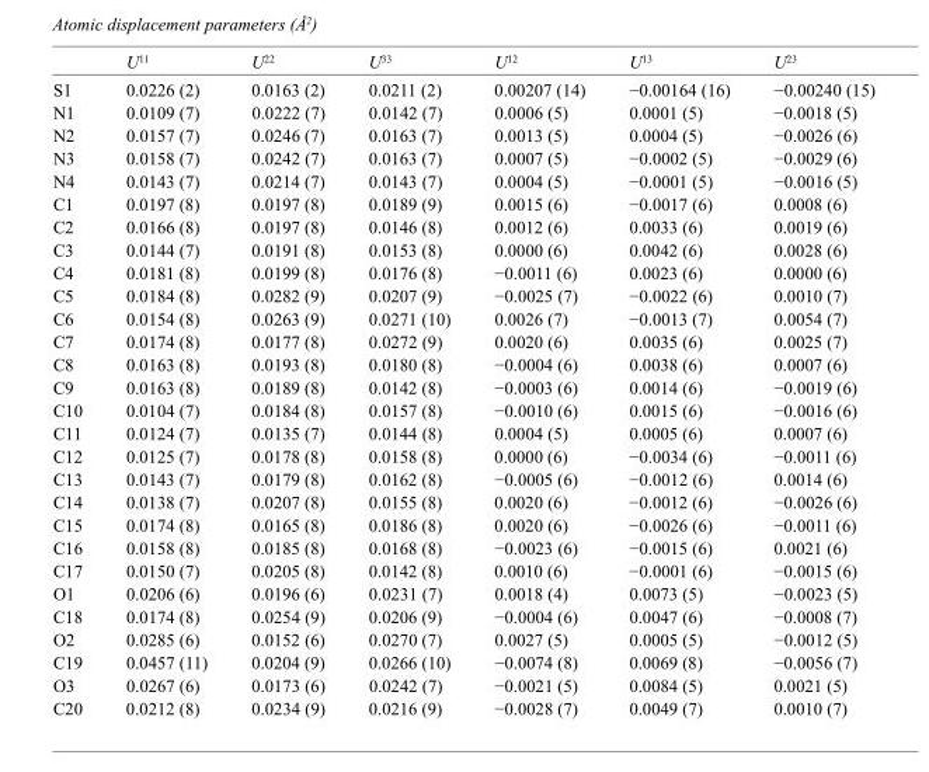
<table><thead><tr><td></td><td>U<sup>11</sup></td><td>U<sup>22</sup></td><td>U<sup>33</sup></td><td>U<sup>12</sup></td><td>U<sup>13</sup></td><td>U<sup>23</sup></td></tr></thead><tbody><tr><td>S1</td><td>0.0226 (2)</td><td>0.0163 (2)</td><td>0.0211 (2)</td><td>0.00207 (14)</td><td>−0.00164 (16)</td><td>−0.00240 (15)</td></tr><tr><td>N1</td><td>0.0109 (7)</td><td>0.0222 (7)</td><td>0.0142 (7)</td><td>0.0006 (5)</td><td>0.0001 (5)</td><td>−0.0018 (5)</td></tr><tr><td>N2</td><td>0.0157 (7)</td><td>0.0246 (7)</td><td>0.0163 (7)</td><td>0.0013 (5)</td><td>0.0004 (5)</td><td>−0.0026 (6)</td></tr><tr><td>N3</td><td>0.0158 (7)</td><td>0.0242 (7)</td><td>0.0163 (7)</td><td>0.0007 (5)</td><td>−0.0002 (5)</td><td>−0.0029 (6)</td></tr><tr><td>N4</td><td>0.0143 (7)</td><td>0.0214 (7)</td><td>0.0143 (7)</td><td>0.0004 (5)</td><td>−0.0001 (5)</td><td>−0.0016 (5)</td></tr><tr><td>C1</td><td>0.0197 (8)</td><td>0.0197 (8)</td><td>0.0189 (9)</td><td>0.0015 (6)</td><td>−0.0017 (6)</td><td>0.0008 (6)</td></tr><tr><td>C2</td><td>0.0166 (8)</td><td>0.0197 (8)</td><td>0.0146 (8)</td><td>0.0012 (6)</td><td>0.0033 (6)</td><td>0.0019 (6)</td></tr><tr><td>C3</td><td>0.0144 (7)</td><td>0.0191 (8)</td><td>0.0153 (8)</td><td>0.0000 (6)</td><td>0.0042 (6)</td><td>0.0028 (6)</td></tr><tr><td>C4</td><td>0.0181 (8)</td><td>0.0199 (8)</td><td>0.0176 (8)</td><td>−0.0011 (6)</td><td>0.0023 (6)</td><td>0.0000 (6)</td></tr><tr><td>C5</td><td>0.0184 (8)</td><td>0.0282 (9)</td><td>0.0207 (9)</td><td>−0.0025 (7)</td><td>−0.0022 (6)</td><td>0.0010 (7)</td></tr><tr><td>C6</td><td>0.0154 (8)</td><td>0.0263 (9)</td><td>0.0271 (10)</td><td>0.0026 (7)</td><td>−0.0013 (7)</td><td>0.0054 (7)</td></tr><tr><td>C7</td><td>0.0174 (8)</td><td>0.0177 (8)</td><td>0.0272 (9)</td><td>0.0020 (6)</td><td>0.0035 (6)</td><td>0.0025 (7)</td></tr><tr><td>C8</td><td>0.0163 (8)</td><td>0.0193 (8)</td><td>0.0180 (8)</td><td>−0.0004 (6)</td><td>0.0038 (6)</td><td>0.0007 (6)</td></tr><tr><td>C9</td><td>0.0163 (8)</td><td>0.0189 (8)</td><td>0.0142 (8)</td><td>−0.0003 (6)</td><td>0.0014 (6)</td><td>−0.0019 (6)</td></tr><tr><td>C10</td><td>0.0104 (7)</td><td>0.0184 (8)</td><td>0.0157 (8)</td><td>−0.0010 (6)</td><td>0.0015 (6)</td><td>−0.0016 (6)</td></tr><tr><td>C11</td><td>0.0124 (7)</td><td>0.0135 (7)</td><td>0.0144 (8)</td><td>0.0004 (5)</td><td>0.0005 (6)</td><td>0.0007 (6)</td></tr><tr><td>C12</td><td>0.0125 (7)</td><td>0.0178 (8)</td><td>0.0158 (8)</td><td>0.0000 (6)</td><td>−0.0034 (6)</td><td>−0.0011 (6)</td></tr><tr><td>C13</td><td>0.0143 (7)</td><td>0.0179 (8)</td><td>0.0162 (8)</td><td>−0.0005 (6)</td><td>−0.0012 (6)</td><td>0.0014 (6)</td></tr><tr><td>C14</td><td>0.0138 (7)</td><td>0.0207 (8)</td><td>0.0155 (8)</td><td>0.0020 (6)</td><td>−0.0012 (6)</td><td>−0.0026 (6)</td></tr><tr><td>C15</td><td>0.0174 (8)</td><td>0.0165 (8)</td><td>0.0186 (8)</td><td>0.0020 (6)</td><td>−0.0026 (6)</td><td>−0.0011 (6)</td></tr><tr><td>C16</td><td>0.0158 (8)</td><td>0.0185 (8)</td><td>0.0168 (8)</td><td>−0.0023 (6)</td><td>−0.0015 (6)</td><td>0.0021 (6)</td></tr><tr><td>C17</td><td>0.0150 (7)</td><td>0.0205 (8)</td><td>0.0142 (8)</td><td>0.0010 (6)</td><td>−0.0001 (6)</td><td>−0.0015 (6)</td></tr><tr><td>O1</td><td>0.0206 (6)</td><td>0.0196 (6)</td><td>0.0231 (7)</td><td>0.0018 (4)</td><td>0.0073 (5)</td><td>−0.0023 (5)</td></tr><tr><td>C18</td><td>0.0174 (8)</td><td>0.0254 (9)</td><td>0.0206 (9)</td><td>−0.0004 (6)</td><td>0.0047 (6)</td><td>−0.0008 (7)</td></tr><tr><td>O2</td><td>0.0285 (6)</td><td>0.0152 (6)</td><td>0.0270 (7)</td><td>0.0027 (5)</td><td>0.0005 (5)</td><td>−0.0012 (5)</td></tr><tr><td>C19</td><td>0.0457 (11)</td><td>0.0204 (9)</td><td>0.0266 (10)</td><td>−0.0074 (8)</td><td>0.0069 (8)</td><td>−0.0056 (7)</td></tr><tr><td>O3</td><td>0.0267 (6)</td><td>0.0173 (6)</td><td>0.0242 (7)</td><td>−0.0021 (5)</td><td>0.0084 (5)</td><td>0.0021 (5)</td></tr><tr><td>C20</td><td>0.0212 (8)</td><td>0.0234 (9)</td><td>0.0216 (9)</td><td>−0.0028 (7)</td><td>0.0049 (7)</td><td>0.0010 (7)</td></tr></tbody></table>